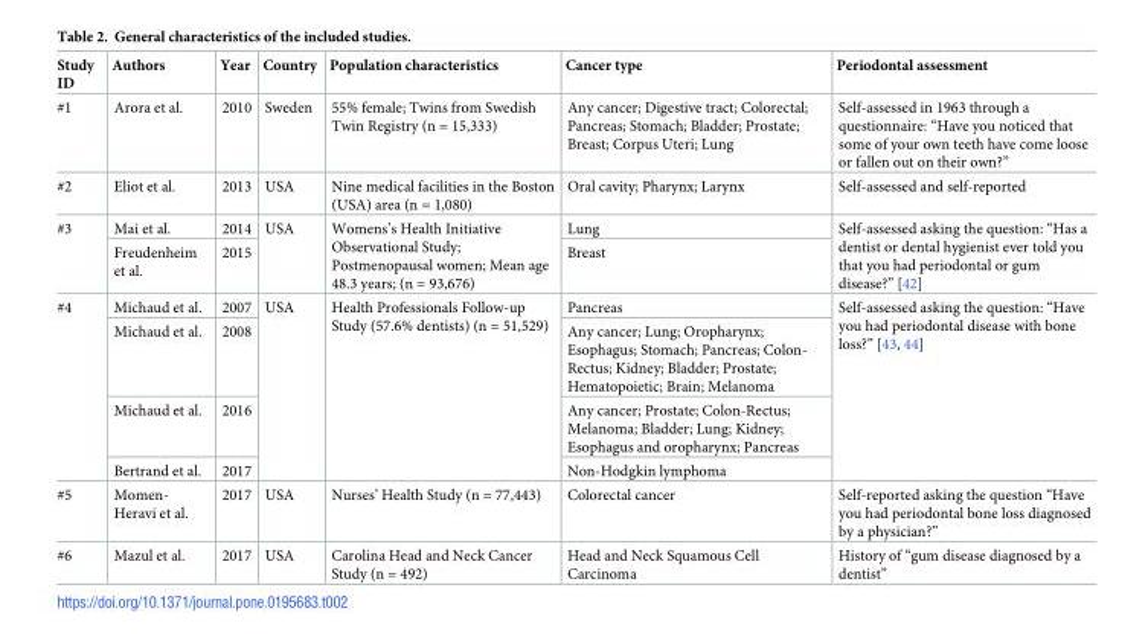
<table><thead><tr><td>Study ID</td><td>Authors</td><td>Year</td><td>Country</td><td>Population characteristics</td><td>Cancer type</td><td>Periodontal assessment</td></tr></thead><tbody><tr><td>#1</td><td>Arora et al.</td><td>2010</td><td>Sweden</td><td>55% female; Twins from Swedish Twin Registry (n = 15,333)</td><td>Any cancer; Digestive tract; Colorectal; Pancreas; Stomach; Bladder; Prostate; Breast; Corpus Uteri; Lung</td><td>Self-assessed in 1963 through a questionnaire: “Have you noticed that some of your own teeth have come loose or fallen out on their own?”</td></tr><tr><td>#2</td><td>Eliot et al.</td><td>2013</td><td>USA</td><td>Nine medical facilities in the Boston (USA) area (n = 1,080)</td><td>Oral cavity; Pharynx; Larynx</td><td>Self-assessed and self-reported</td></tr><tr><td rowspan="2">#3</td><td>Mai et al.</td><td>2014</td><td rowspan="2">USA</td><td rowspan="2">Womens’s Health Initiative Observational Study; Postmenopausal women; Mean age 48.3 years; (n = 93,676)</td><td>Lung</td><td rowspan="2">Self-assessed asking the question: “Has a dentist or dental hygienist ever told you that you had periodontal or gum disease?” [42]</td></tr><tr><td>Freudenheim et al.</td><td>2015</td><td>Breast</td></tr><tr><td rowspan="4">#4</td><td>Michaud et al.</td><td>2007</td><td rowspan="4">USA</td><td rowspan="4">Health Professionals Follow-up Study (57.6% dentists) (n = 51,529)</td><td>Pancreas</td><td rowspan="4">Self-assessed asking the question: “Have you had periodontal disease with bone loss?” [43, 44]</td></tr><tr><td>Michaud et al.</td><td>2008</td><td>Any cancer; Lung; Oropharynx; Esophagus; Stomach; Pancreas; Colon- Rectus; Kidney; Bladder; Prostate; Hematopoietic; Brain; Melanoma</td></tr><tr><td>Michaud et al.</td><td>2016</td><td>Any cancer; Prostate; Colon-Rectus; Melanoma; Bladder; Lung; Kidney; Esophagus and oropharynx; Pancreas</td></tr><tr><td>Bertrand et al.</td><td>2017</td><td>Non-Hodgkin lymphoma</td></tr><tr><td>#5</td><td>Momen- Heravi et al.</td><td>2017</td><td>USA</td><td>Nurses’ Health Study (n = 77,443)</td><td>Colorectal cancer</td><td>Self-reported asking the question “Have you had periodontal bone loss diagnosed by a physician?”</td></tr><tr><td>#6</td><td>Mazul et al.</td><td>2017</td><td>USA</td><td>Carolina Head and Neck Cancer Study (n = 492)</td><td>Head and Neck Squamous Cell Carcinoma</td><td>History of “gum disease diagnosed by a dentist”</td></tr></tbody></table>